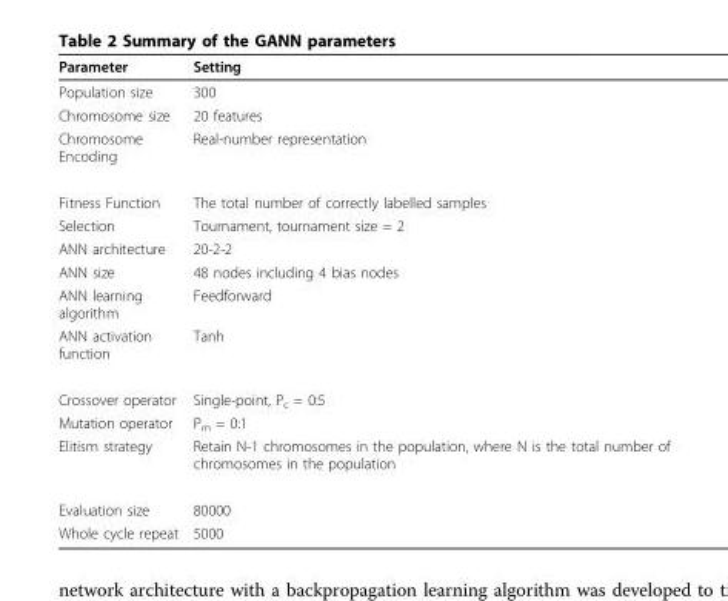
<table><thead><tr><td>Parameter</td><td>Setting</td></tr></thead><tbody><tr><td>Population size</td><td>300</td></tr><tr><td>Chromosome size</td><td>20 features</td></tr><tr><td>Chromosome Encoding</td><td>Real-number representation</td></tr><tr><td>Fitness Function</td><td>The total number of correctly labelled samples</td></tr><tr><td>Selection</td><td>Tournament, tournament size = 2</td></tr><tr><td>ANN architecture</td><td>20-2-2</td></tr><tr><td>ANN size</td><td>48 nodes including 4 bias nodes</td></tr><tr><td>ANN learning algorithm</td><td>Feedforward</td></tr><tr><td>ANN activation function</td><td>Tanh</td></tr><tr><td>Crossover operator</td><td>Single-point, P<sub>c</sub> = 0:5</td></tr><tr><td>Mutation operator</td><td>P<sub>m</sub> = 0:1</td></tr><tr><td>Elitism strategy</td><td>Retain N-1 chromosomes in the population, where N is the total number of chromosomes in the population</td></tr><tr><td>Evaluation size</td><td>80000</td></tr><tr><td>Whole cycle repeat</td><td>5000</td></tr></tbody></table>